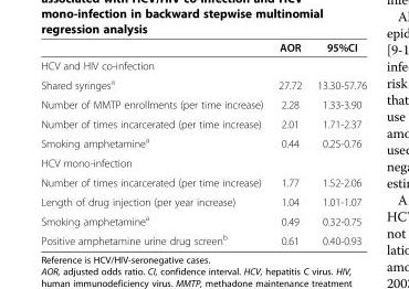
<table><thead><tr><td></td><td>AOR</td><td>95%CI</td></tr></thead><tbody><tr><td colspan="3">HCV and HIV co-infection</td></tr><tr><td>Shared syringes<sup>a</sup></td><td>27.72</td><td>13.30-57.76</td></tr><tr><td>Number of MMTP enrollments (per time increase)</td><td>2.28</td><td>1.33-3.90</td></tr><tr><td>Number of times incarcerated (per time increase)</td><td>2.01</td><td>1.71-2.37</td></tr><tr><td>Smoking amphetamine<sup>a</sup></td><td>0.44</td><td>0.25-0.76</td></tr><tr><td colspan="3">HCV mono-infection</td></tr><tr><td>Number of times incarcerated (per time increase)</td><td>1.77</td><td>1.52-2.06</td></tr><tr><td>Length of drug injection (per year increase)</td><td>1.04</td><td>1.01-1.07</td></tr><tr><td>Smoking amphetamine<sup>a</sup></td><td>0.49</td><td>0.32-0.75</td></tr><tr><td>Positive amphetamine urine drug screen<sup>b</sup></td><td>0.61</td><td>0.40-0.93</td></tr></tbody></table>